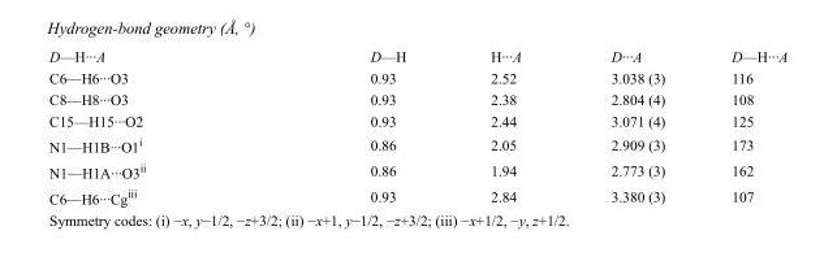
<table><tbody><tr><td>D—H···A</td><td>D—H</td><td>H···A</td><td>D···A</td><td>D—H···A</td></tr><tr><td>C6—H6···O3</td><td>0.93</td><td>2.52</td><td>3.038 (3)</td><td>116</td></tr><tr><td>C8—H8···O3</td><td>0.93</td><td>2.38</td><td>2.804 (4)</td><td>108</td></tr><tr><td>C15—H15···O2</td><td>0.93</td><td>2.44</td><td>3.071 (4)</td><td>125</td></tr><tr><td>N1—H1B···O1<sup>i</sup></td><td>0.86</td><td>2.05</td><td>2.909 (3)</td><td>173</td></tr><tr><td>N1—H1A···O3<sup>ii</sup></td><td>0.86</td><td>1.94</td><td>2.773 (3)</td><td>162</td></tr><tr><td>C6—H6···Cg<sup>iii</sup></td><td>0.93</td><td>2.84</td><td>3.380 (3)</td><td>107</td></tr></tbody></table>